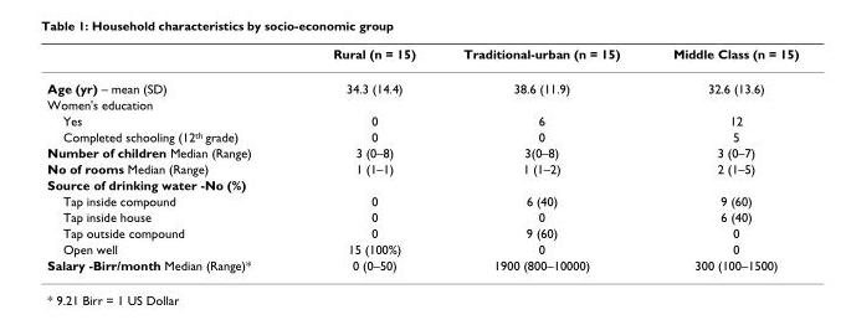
<table><thead><tr><td></td><td>Rural (n = 15)</td><td>Traditional-urban (n = 15)</td><td>Middle Class (n = 15)</td></tr></thead><tbody><tr><td>Age (yr) – mean (SD)</td><td>34.3 (14.4)</td><td>38.6 (11.9)</td><td>32.6 (13.6)</td></tr><tr><td colspan="4">Women&#x27;s education</td></tr><tr><td>Yes</td><td>0</td><td>6</td><td>12</td></tr><tr><td>Completed schooling (12<sup>th</sup> grade)</td><td>0</td><td>0</td><td>5</td></tr><tr><td>Number of children Median (Range)</td><td>3 (0–8)</td><td>3(0–8)</td><td>3 (0–7)</td></tr><tr><td>No of rooms Median (Range)</td><td>1 (1–1)</td><td>1 (1–2)</td><td>2 (1–5)</td></tr><tr><td colspan="4">Source of drinking water -No (%)</td></tr><tr><td>Tap inside compound</td><td>0</td><td>6 (40)</td><td>9 (60)</td></tr><tr><td>Tap inside house</td><td>0</td><td>0</td><td>6 (40)</td></tr><tr><td>Tap outside compound</td><td>0</td><td>9 (60)</td><td>0</td></tr><tr><td>Open well</td><td>15 (100%)</td><td>0</td><td>0</td></tr><tr><td>Salary -Birr/month Median (Range)*</td><td>0 (0–50)</td><td>1900 (800–10000)</td><td>300 (100–1500)</td></tr></tbody></table>